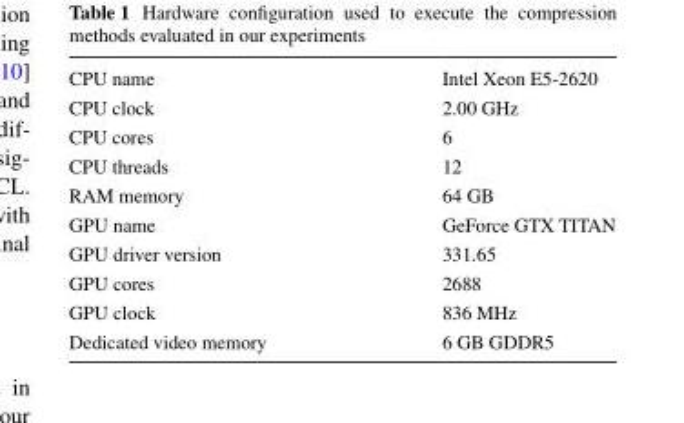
<table><tbody><tr><td>CPU name</td><td>Intel Xeon E5-2620</td></tr><tr><td>CPU clock</td><td>2.00 GHz</td></tr><tr><td>CPU cores</td><td>6</td></tr><tr><td>CPU threads</td><td>12</td></tr><tr><td>RAM memory</td><td>64 GB</td></tr><tr><td>GPU name</td><td>GeForce GTX TITAN</td></tr><tr><td>GPU driver version</td><td>331.65</td></tr><tr><td>GPU cores</td><td>2688</td></tr><tr><td>GPU clock</td><td>836 MHz</td></tr><tr><td>Dedicated video memory</td><td>6 GB GDDR5</td></tr></tbody></table>